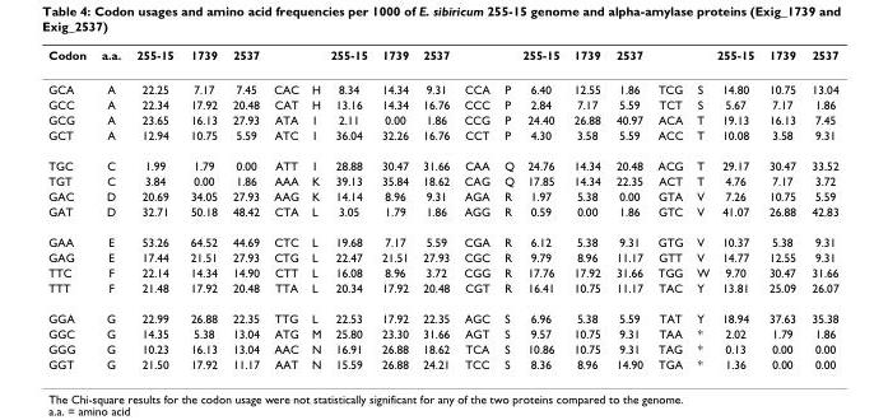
<table><thead><tr><td>Codon</td><td>a.a.</td><td>255-15</td><td>1739</td><td>2537</td><td></td><td></td><td>255-15</td><td>1739</td><td>2537</td><td></td><td></td><td>255-15</td><td>1739</td><td>2537</td><td></td><td></td><td>255-15</td><td>1739</td><td>2537</td></tr></thead><tbody><tr><td>GCA</td><td>A</td><td>22.25</td><td>7.17</td><td>7.45</td><td>CAC</td><td>H</td><td>8.34</td><td>14.34</td><td>9.31</td><td>CCA</td><td>P</td><td>6.40</td><td>12.55</td><td>1.86</td><td>TCG</td><td>S</td><td>14.80</td><td>10.75</td><td>13.04</td></tr><tr><td>GCC</td><td>A</td><td>22.34</td><td>17.92</td><td>20.48</td><td>CAT</td><td>H</td><td>13.16</td><td>14.34</td><td>16.76</td><td>CCC</td><td>P</td><td>2.84</td><td>7.17</td><td>5.59</td><td>TCT</td><td>S</td><td>5.67</td><td>7.17</td><td>1.86</td></tr><tr><td>GCG</td><td>A</td><td>23.65</td><td>16.13</td><td>27.93</td><td>ATA</td><td>I</td><td>2.11</td><td>0.00</td><td>1.86</td><td>CCG</td><td>P</td><td>24.40</td><td>26.88</td><td>40.97</td><td>ACA</td><td>T</td><td>19.13</td><td>16.13</td><td>7.45</td></tr><tr><td>GCT</td><td>A</td><td>12.94</td><td>10.75</td><td>5.59</td><td>ATC</td><td>I</td><td>36.04</td><td>32.26</td><td>16.76</td><td>CCT</td><td>P</td><td>4.30</td><td>3.58</td><td>5.59</td><td>ACC</td><td>T</td><td>10.08</td><td>3.58</td><td>9.31</td></tr><tr><td>TGC</td><td>C</td><td>1.99</td><td>1.79</td><td>0.00</td><td>ATT</td><td>I</td><td>28.88</td><td>30.47</td><td>31.66</td><td>CAA</td><td>Q</td><td>24.76</td><td>14.34</td><td>20.48</td><td>ACG</td><td>T</td><td>29.17</td><td>30.47</td><td>33.52</td></tr><tr><td>TGT</td><td>C</td><td>3.84</td><td>0.00</td><td>1.86</td><td>AAA</td><td>K</td><td>39.13</td><td>35.84</td><td>18.62</td><td>CAG</td><td>Q</td><td>17.85</td><td>14.34</td><td>22.35</td><td>ACT</td><td>T</td><td>4.76</td><td>7.17</td><td>3.72</td></tr><tr><td>GAC</td><td>D</td><td>20.69</td><td>34.05</td><td>27.93</td><td>AAG</td><td>K</td><td>14.14</td><td>8.96</td><td>9.31</td><td>AGA</td><td>R</td><td>1.97</td><td>5.38</td><td>0.00</td><td>GTA</td><td>V</td><td>7.26</td><td>10.75</td><td>5.59</td></tr><tr><td>GAT</td><td>D</td><td>32.71</td><td>50.18</td><td>48.42</td><td>CTA</td><td>L</td><td>3.05</td><td>1.79</td><td>1.86</td><td>AGG</td><td>R</td><td>0.59</td><td>0.00</td><td>1.86</td><td>GTC</td><td>V</td><td>41.07</td><td>26.88</td><td>42.83</td></tr><tr><td>GAA</td><td>E</td><td>53.26</td><td>64.52</td><td>44.69</td><td>CTC</td><td>L</td><td>19.68</td><td>7.17</td><td>5.59</td><td>CGA</td><td>R</td><td>6.12</td><td>5.38</td><td>9.31</td><td>GTG</td><td>V</td><td>10.37</td><td>5.38</td><td>9.31</td></tr><tr><td>GAG</td><td>E</td><td>17.44</td><td>21.51</td><td>27.93</td><td>CTG</td><td>L</td><td>22.47</td><td>21.51</td><td>27.93</td><td>CGC</td><td>R</td><td>9.79</td><td>8.96</td><td>11.17</td><td>GTT</td><td>V</td><td>14.77</td><td>12.55</td><td>9.31</td></tr><tr><td>TTC</td><td>F</td><td>22.14</td><td>14.34</td><td>14.90</td><td>CTT</td><td>L</td><td>16.08</td><td>8.96</td><td>3.72</td><td>CGG</td><td>R</td><td>17.76</td><td>17.92</td><td>31.66</td><td>TGG</td><td>W</td><td>9.70</td><td>30.47</td><td>31.66</td></tr><tr><td>TTT</td><td>F</td><td>21.48</td><td>17.92</td><td>20.48</td><td>TTA</td><td>L</td><td>20.34</td><td>17.92</td><td>20.48</td><td>CGT</td><td>R</td><td>16.41</td><td>10.75</td><td>11.17</td><td>TAC</td><td>Y</td><td>13.81</td><td>25.09</td><td>26.07</td></tr><tr><td>GGA</td><td>G</td><td>22.99</td><td>26.88</td><td>22.35</td><td>TTG</td><td>L</td><td>22.53</td><td>17.92</td><td>22.35</td><td>AGC</td><td>S</td><td>6.96</td><td>5.38</td><td>5.59</td><td>TAT</td><td>Y</td><td>18.94</td><td>37.63</td><td>35.38</td></tr><tr><td>GGC</td><td>G</td><td>14.35</td><td>5.38</td><td>13.04</td><td>ATG</td><td>M</td><td>25.80</td><td>23.30</td><td>31.66</td><td>AGT</td><td>S</td><td>9.57</td><td>10.75</td><td>9.31</td><td>TAA</td><td>*</td><td>2.02</td><td>1.79</td><td>1.86</td></tr><tr><td>GGG</td><td>G</td><td>10.23</td><td>16.13</td><td>13.04</td><td>AAC</td><td>N</td><td>16.91</td><td>26.88</td><td>18.62</td><td>TCA</td><td>S</td><td>10.86</td><td>10.75</td><td>9.31</td><td>TAG</td><td>*</td><td>0.13</td><td>0.00</td><td>0.00</td></tr><tr><td>GGT</td><td>G</td><td>21.50</td><td>17.92</td><td>11.17</td><td>AAT</td><td>N</td><td>15.59</td><td>26.88</td><td>24.21</td><td>TCC</td><td>S</td><td>8.36</td><td>8.96</td><td>14.90</td><td>TGA</td><td>*</td><td>1.36</td><td>0.00</td><td>0.00</td></tr></tbody></table>